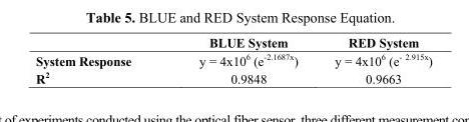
<table><thead><tr><td></td><td>BLUE System</td><td>RED System</td></tr></thead><tbody><tr><td>System Response</td><td>y = 4x106 (e-2.1687x)</td><td>y = 4x106 (e- 2.915x)</td></tr><tr><td>R<sup>2</sup></td><td>0.9848</td><td>0.9663</td></tr></tbody></table>